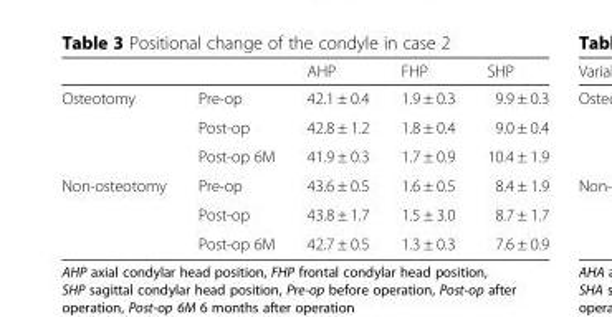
<table><thead><tr><td></td><td></td><td>AHP</td><td>FHP</td><td>SHP</td></tr></thead><tbody><tr><td rowspan="3">Osteotomy</td><td>Pre-op</td><td>42.1 ± 0.4</td><td>1.9 ± 0.3</td><td>9.9 ± 0.3</td></tr><tr><td>Post-op</td><td>42.8 ± 1.2</td><td>1.8 ± 0.4</td><td>9.0 ± 0.4</td></tr><tr><td>Post-op 6M</td><td>41.9 ± 0.3</td><td>1.7 ± 0.9</td><td>10.4 ± 1.9</td></tr><tr><td rowspan="3">Non-osteotomy</td><td>Pre-op</td><td>43.6 ± 0.5</td><td>1.6 ± 0.5</td><td>8.4 ± 1.9</td></tr><tr><td>Post-op</td><td>43.8 ± 1.7</td><td>1.5 ± 3.0</td><td>8.7 ± 1.7</td></tr><tr><td>Post-op 6M</td><td>42.7 ± 0.5</td><td>1.3 ± 0.3</td><td>7.6 ± 0.9</td></tr></tbody></table>